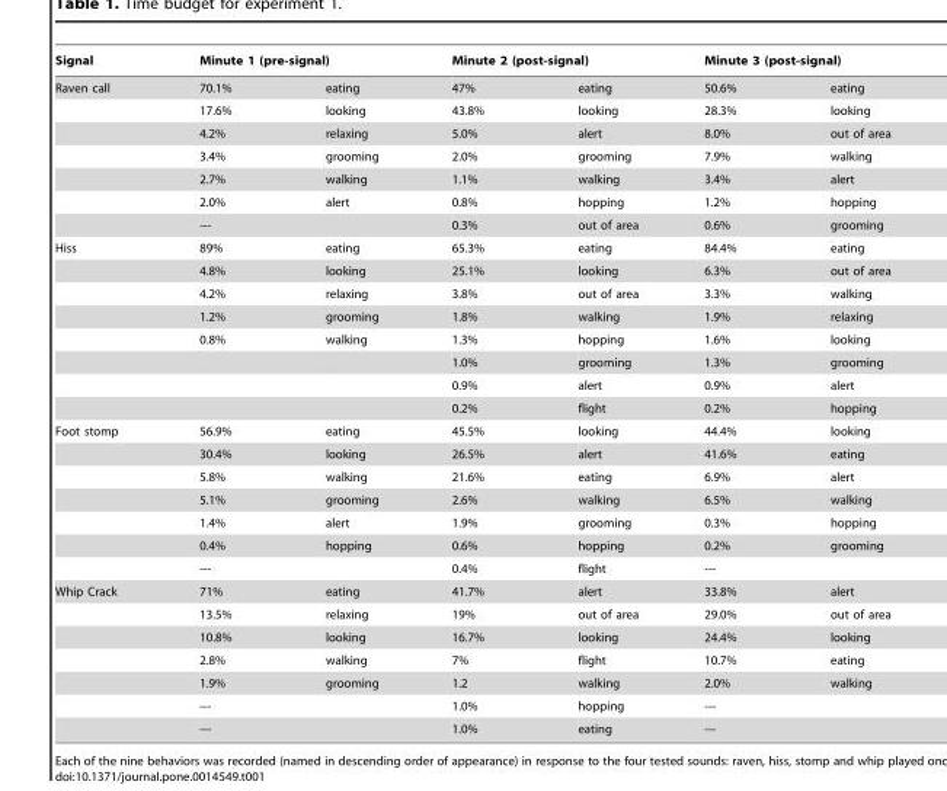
<table><thead><tr><td rowspan="2">Signal Raven call</td><td colspan="2">Minute 1 (pre-signal)</td><td colspan="2">Minute 2 (post-signal)</td><td colspan="2">Minute 3 (post-signal)</td></tr><tr><td>70.1%</td><td>eating</td><td>47%</td><td>eating</td><td>50.6%</td><td>eating</td></tr></thead><tbody><tr><td></td><td>17.6%</td><td>looking</td><td>43.8%</td><td>looking</td><td>28.3%</td><td>looking</td></tr><tr><td></td><td>4.2%</td><td>relaxing</td><td>5.0%</td><td>alert</td><td>8.0%</td><td>out of area</td></tr><tr><td></td><td>3.4%</td><td>grooming</td><td>2.0%</td><td>grooming</td><td>7.9%</td><td>walking</td></tr><tr><td></td><td>2.7%</td><td>walking</td><td>1.1%</td><td>walking</td><td>3.4%</td><td>alert</td></tr><tr><td></td><td>2.0%</td><td>alert</td><td>0.8%</td><td>hopping</td><td>1.2%</td><td>hopping</td></tr><tr><td></td><td>---</td><td></td><td>0.3%</td><td>out of area</td><td>0.6%</td><td>grooming</td></tr><tr><td rowspan="8">Hiss</td><td>89%</td><td>eating</td><td>65.3%</td><td>eating</td><td>84.4%</td><td>eating</td></tr><tr><td>4.8%</td><td>looking</td><td>25.1%</td><td>looking</td><td>6.3%</td><td>out of area</td></tr><tr><td>4.2%</td><td>relaxing</td><td>3.8%</td><td>out of area</td><td>3.3%</td><td>walking</td></tr><tr><td>1.2%</td><td>grooming</td><td>1.8%</td><td>walking</td><td>1.9%</td><td>relaxing</td></tr><tr><td>0.8%</td><td>walking</td><td>1.3%</td><td>hopping</td><td>1.6%</td><td>looking</td></tr><tr><td></td><td></td><td>1.0%</td><td>grooming</td><td>1.3%</td><td>grooming</td></tr><tr><td></td><td></td><td>0.9%</td><td>alert</td><td>0.9%</td><td>alert</td></tr><tr><td></td><td></td><td>0.2%</td><td>flight</td><td>0.2%</td><td>hopping</td></tr><tr><td rowspan="7">Foot stomp</td><td>56.9%</td><td>eating</td><td>45.5%</td><td>looking</td><td>44.4%</td><td>looking</td></tr><tr><td>30.4%</td><td>looking</td><td>26.5%</td><td>alert</td><td>41.6%</td><td>eating</td></tr><tr><td>5.8%</td><td>walking</td><td>21.6%</td><td>eating</td><td>6.9%</td><td>alert</td></tr><tr><td>5.1%</td><td>grooming</td><td>2.6%</td><td>walking</td><td>6.5%</td><td>walking</td></tr><tr><td>1.4%</td><td>alert</td><td>1.9%</td><td>grooming</td><td>0.3%</td><td>hopping</td></tr><tr><td>0.4%</td><td>hopping</td><td>0.6%</td><td>hopping</td><td>0.2%</td><td>grooming</td></tr><tr><td>---</td><td></td><td>0.4%</td><td>flight</td><td>---</td><td></td></tr><tr><td rowspan="7">Whip Crack</td><td>71%</td><td>eating</td><td>41.7%</td><td>alert</td><td>33.8%</td><td>alert</td></tr><tr><td>13.5%</td><td>relaxing</td><td>19%</td><td>out of area</td><td>29.0%</td><td>out of area</td></tr><tr><td>10.8%</td><td>looking</td><td>16.7%</td><td>looking</td><td>24.4%</td><td>looking</td></tr><tr><td>2.8%</td><td>walking</td><td>7%</td><td>flight</td><td>10.7%</td><td>eating</td></tr><tr><td>1.9%</td><td>grooming</td><td>1.2</td><td>walking</td><td>2.0%</td><td>walking</td></tr><tr><td>---</td><td></td><td>1.0%</td><td>hopping</td><td>---</td><td></td></tr><tr><td>---</td><td></td><td>1.0%</td><td>eating</td><td>---</td><td></td></tr></tbody></table>